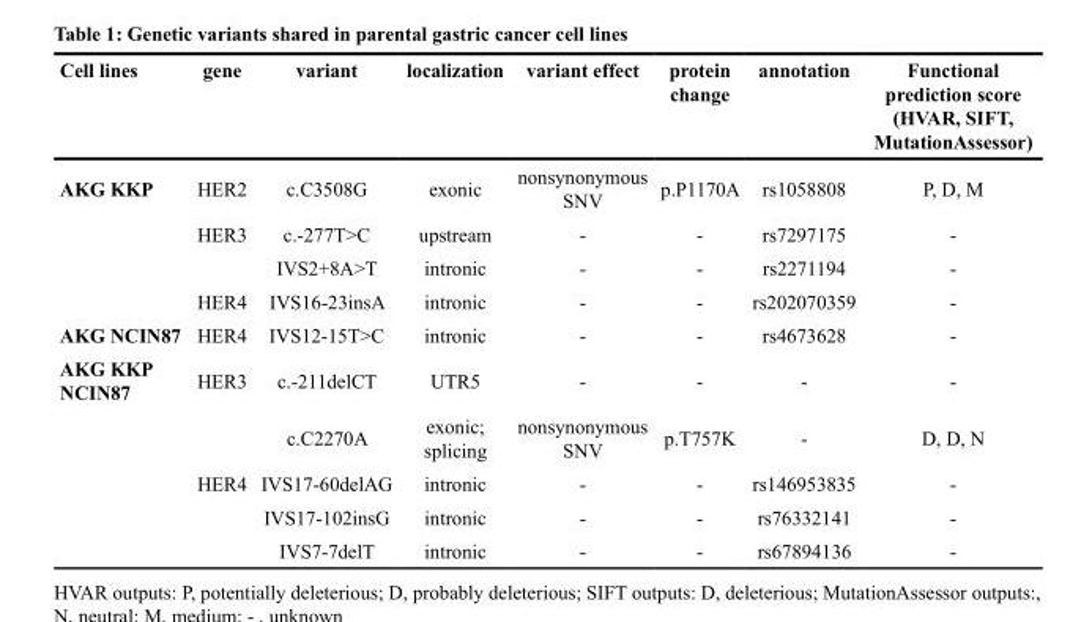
<table><thead><tr><td>Cell lines</td><td>gene</td><td>variant</td><td>localization</td><td>variant effect</td><td>protein change</td><td>annotation</td><td>Functional prediction score (HVAR, SIFT, MutationAssessor)</td></tr></thead><tbody><tr><td rowspan="4">AKG KKP</td><td>HER2</td><td>c.C3508G</td><td>exonic</td><td>nonsynonymous SNV</td><td>p.P1170A</td><td>rs1058808</td><td>P, D, M</td></tr><tr><td>HER3</td><td>c.-277T&gt;C</td><td>upstream</td><td>-</td><td>-</td><td>rs7297175</td><td>-</td></tr><tr><td></td><td>IVS2+8A&gt;T</td><td>intronic</td><td>-</td><td>-</td><td>rs2271194</td><td>-</td></tr><tr><td>HER4</td><td>IVS16-23insA</td><td>intronic</td><td>-</td><td>-</td><td>rs202070359</td><td>-</td></tr><tr><td>AKG NCIN87</td><td>HER4</td><td>IVS12-15T&gt;C</td><td>intronic</td><td>-</td><td>-</td><td>rs4673628</td><td>-</td></tr><tr><td rowspan="5">AKG KKP NCIN87</td><td>HER3</td><td>c.-211delCT</td><td>UTR5</td><td>-</td><td>-</td><td>-</td><td>-</td></tr><tr><td></td><td>c.C2270A</td><td>exonic; splicing</td><td>nonsynonymous SNV</td><td>p.T757K</td><td>-</td><td>D, D, N</td></tr><tr><td>HER4</td><td>IVS17-60delAG</td><td>intronic</td><td>-</td><td>-</td><td>rs146953835</td><td>-</td></tr><tr><td></td><td>IVS17-102insG</td><td>intronic</td><td>-</td><td>-</td><td>rs76332141</td><td>-</td></tr><tr><td></td><td>IVS7-7delT</td><td>intronic</td><td>-</td><td>-</td><td>rs67894136</td><td>-</td></tr></tbody></table>